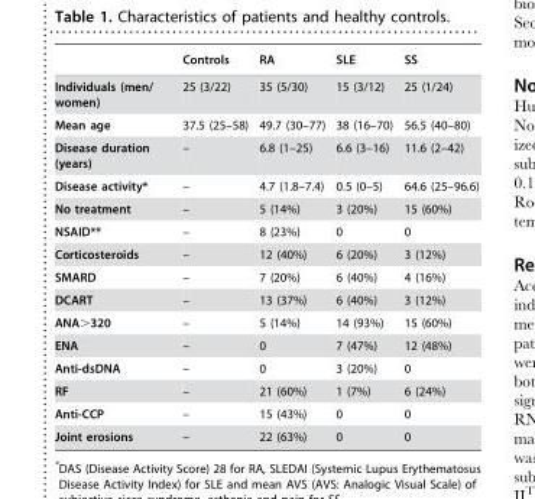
<table><thead><tr><td></td><td>Controls</td><td>RA</td><td>SLE</td><td>SS</td></tr></thead><tbody><tr><td>Individuals (men/ women)</td><td>25 (3/22)</td><td>35 (5/30)</td><td>15 (3/12)</td><td>25 (1/24)</td></tr><tr><td>Mean age</td><td>37.5 (25–58)</td><td>49.7 (30–77)</td><td>38 (16–70)</td><td>56.5 (40–80)</td></tr><tr><td>Disease duration (years)</td><td>–</td><td>6.8 (1–25)</td><td>6.6 (3–16)</td><td>11.6 (2–42)</td></tr><tr><td>Disease activity*</td><td>–</td><td>4.7 (1.8–7.4)</td><td>0.5 (0–5)</td><td>64.6 (25–96.6)</td></tr><tr><td>No treatment</td><td>–</td><td>5 (14%)</td><td>3 (20%)</td><td>15 (60%)</td></tr><tr><td>NSAID**</td><td>–</td><td>8 (23%)</td><td>0</td><td>0</td></tr><tr><td>Corticosteroids</td><td>–</td><td>12 (40%)</td><td>6 (20%)</td><td>3 (12%)</td></tr><tr><td>SMARD</td><td>–</td><td>7 (20%)</td><td>6 (40%)</td><td>4 (16%)</td></tr><tr><td>DCART</td><td>–</td><td>13 (37%)</td><td>6 (40%)</td><td>3 (12%)</td></tr><tr><td>ANA&gt;320</td><td>–</td><td>5 (14%)</td><td>14 (93%)</td><td>15 (60%)</td></tr><tr><td>ENA</td><td>–</td><td>0</td><td>7 (47%)</td><td>12 (48%)</td></tr><tr><td>Anti-dsDNA</td><td>–</td><td>0</td><td>3 (20%)</td><td>0</td></tr><tr><td>RF</td><td>–</td><td>21 (60%)</td><td>1 (7%)</td><td>6 (24%)</td></tr><tr><td>Anti-CCP</td><td>–</td><td>15 (43%)</td><td>0</td><td>0</td></tr><tr><td>Joint erosions</td><td>–</td><td>22 (63%)</td><td>0</td><td>0</td></tr></tbody></table>